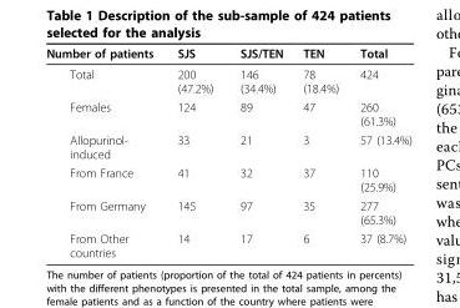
<table><thead><tr><td>Number of patients</td><td>SJS</td><td>SJS/TEN</td><td>TEN</td><td>Total</td></tr></thead><tbody><tr><td>Total</td><td>200 (47.2%)</td><td>146 (34.4%)</td><td>78 (18.4%)</td><td>424</td></tr><tr><td>Females</td><td>124</td><td>89</td><td>47</td><td>260 (61.3%)</td></tr><tr><td>Allopurinol- induced</td><td>33</td><td>21</td><td>3</td><td>57 (13.4%)</td></tr><tr><td>From France</td><td>41</td><td>32</td><td>37</td><td>110 (25.9%)</td></tr><tr><td>From Germany</td><td>145</td><td>97</td><td>35</td><td>277 (65.3%)</td></tr><tr><td>From Other countries</td><td>14</td><td>17</td><td>6</td><td>37 (8.7%)</td></tr></tbody></table>